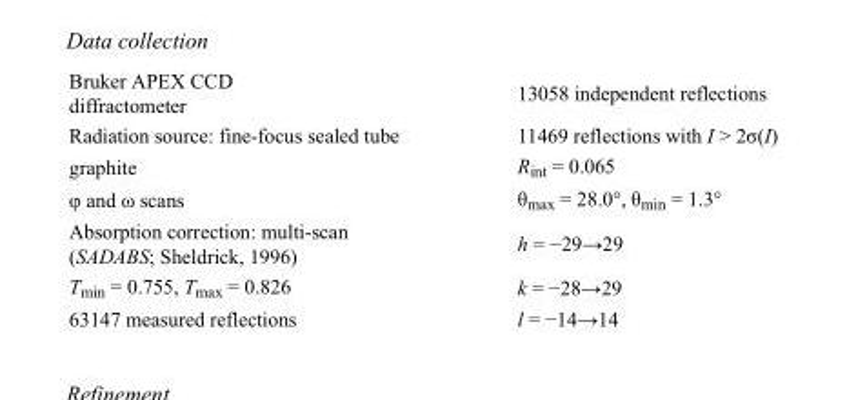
<table><tbody><tr><td>Bruker APEX CCD diffractometer</td><td>13058 independent reflections</td></tr><tr><td>Radiation source: fine-focus sealed tube</td><td>11469 reflections with I &gt; 2σ(I)</td></tr><tr><td>graphite</td><td>R<sub>int</sub> = 0.065</td></tr><tr><td>φ and ω scans</td><td>θ<sub>max</sub> = 28.0°, θ<sub>min</sub> = 1.3°</td></tr><tr><td>Absorption correction: multi-scan (SADABS; Sheldrick, 1996)</td><td>h = −29→29</td></tr><tr><td>T<sub>min</sub> = 0.755, T<sub>max</sub> = 0.826</td><td>k = −28→29</td></tr><tr><td>63147 measured reflections</td><td>l = −14→14</td></tr></tbody></table>